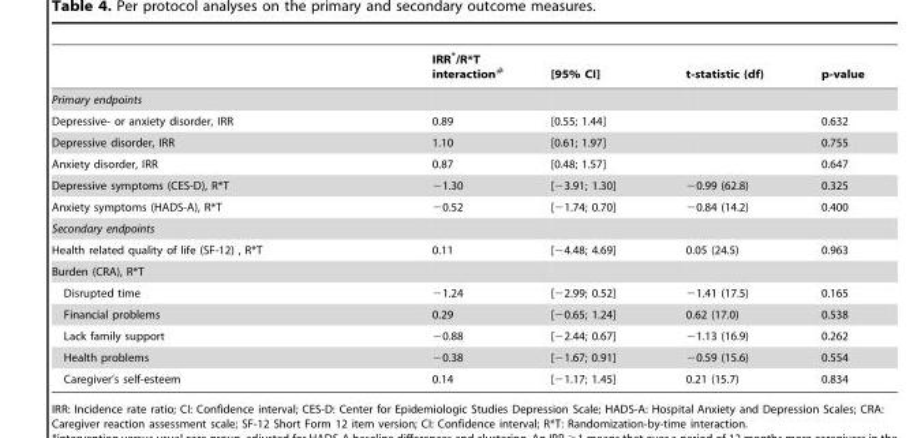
<table><thead><tr><td></td><td>IRR*/R*T interaction#</td><td>[95% CI]</td><td>t-statistic (df)</td><td>p-value</td></tr></thead><tbody><tr><td colspan="5">Primary endpoints</td></tr><tr><td>Depressive- or anxiety disorder, IRR</td><td>0.89</td><td>[0.55; 1.44]</td><td></td><td>0.632</td></tr><tr><td>Depressive disorder, IRR</td><td>1.10</td><td>[0.61; 1.97]</td><td></td><td>0.755</td></tr><tr><td>Anxiety disorder, IRR</td><td>0.87</td><td>[0.48; 1.57]</td><td></td><td>0.647</td></tr><tr><td>Depressive symptoms (CES-D), R*T</td><td>−1.30</td><td>[−3.91; 1.30]</td><td>−0.99 (62.8)</td><td>0.325</td></tr><tr><td>Anxiety symptoms (HADS-A), R*T</td><td>−0.52</td><td>[−1.74; 0.70]</td><td>−0.84 (14.2)</td><td>0.400</td></tr><tr><td colspan="5">Secondary endpoints</td></tr><tr><td>Health related quality of life (SF-12) , R*T</td><td>0.11</td><td>[−4.48; 4.69]</td><td>0.05 (24.5)</td><td>0.963</td></tr><tr><td colspan="5">Burden (CRA), R*T</td></tr><tr><td>Disrupted time</td><td>−1.24</td><td>[−2.99; 0.52]</td><td>−1.41 (17.5)</td><td>0.165</td></tr><tr><td>Financial problems</td><td>0.29</td><td>[−0.65; 1.24]</td><td>0.62 (17.0)</td><td>0.538</td></tr><tr><td>Lack family support</td><td>−0.88</td><td>[−2.44; 0.67]</td><td>−1.13 (16.9)</td><td>0.262</td></tr><tr><td>Health problems</td><td>−0.38</td><td>[−1.67; 0.91]</td><td>−0.59 (15.6)</td><td>0.554</td></tr><tr><td>Caregiver’s self-esteem</td><td>0.14</td><td>[−1.17; 1.45]</td><td>0.21 (15.7)</td><td>0.834</td></tr></tbody></table>